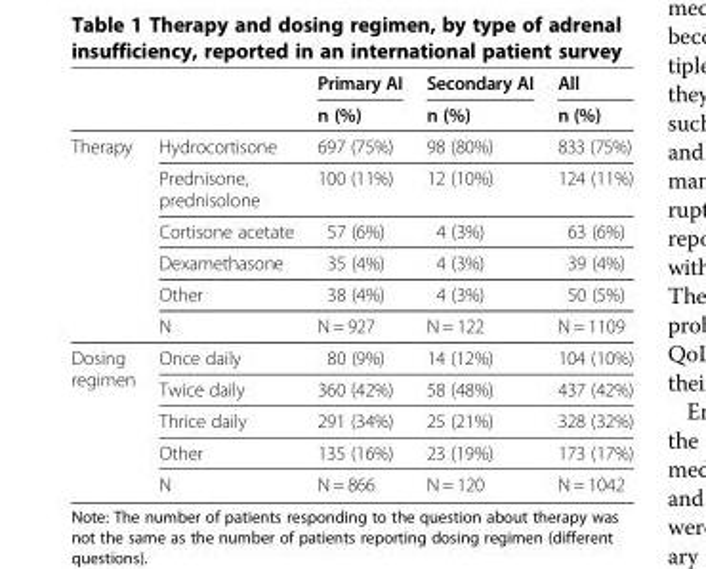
<table><thead><tr><td rowspan="2"></td><td rowspan="2"></td><td rowspan="2">Primary AI n (%)</td><td rowspan="2">Secondary AI n (%)</td><td rowspan="2">All n (%)</td></tr><tr></tr></thead><tbody><tr><td rowspan="6">Therapy</td><td>Hydrocortisone</td><td>697 (75%)</td><td>98 (80%)</td><td>833 (75%)</td></tr><tr><td>Prednisone, prednisolone</td><td>100 (11%)</td><td>12 (10%)</td><td>124 (11%)</td></tr><tr><td>Cortisone acetate</td><td>57 (6%)</td><td>4 (3%)</td><td>63 (6%)</td></tr><tr><td>Dexamethasone</td><td>35 (4%)</td><td>4 (3%)</td><td>39 (4%)</td></tr><tr><td>Other</td><td>38 (4%)</td><td>4 (3%)</td><td>50 (5%)</td></tr><tr><td>N</td><td>N = 927</td><td>N = 122</td><td>N = 1109</td></tr><tr><td rowspan="5">Dosing regimen</td><td>Once daily</td><td>80 (9%)</td><td>14 (12%)</td><td>104 (10%)</td></tr><tr><td>Twice daily</td><td>360 (42%)</td><td>58 (48%)</td><td>437 (42%)</td></tr><tr><td>Thrice daily</td><td>291 (34%)</td><td>25 (21%)</td><td>328 (32%)</td></tr><tr><td>Other</td><td>135 (16%)</td><td>23 (19%)</td><td>173 (17%)</td></tr><tr><td>N</td><td>N = 866</td><td>N = 120</td><td>N = 1042</td></tr></tbody></table>